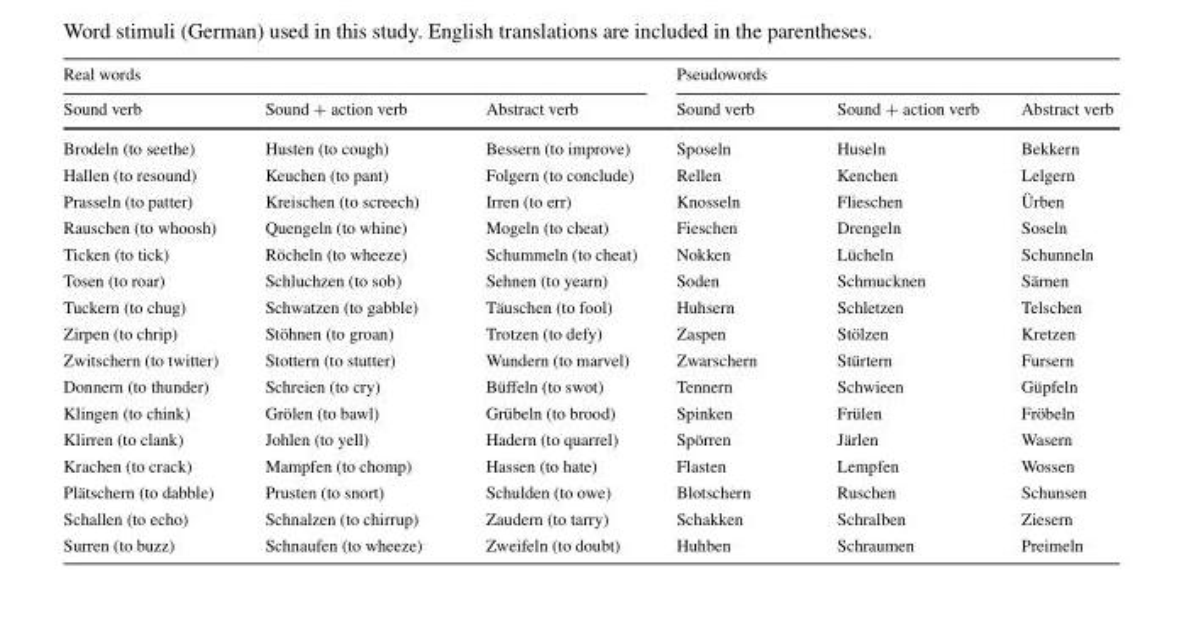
<table><thead><tr><td colspan="3">Real words</td><td colspan="3">Pseudowords</td></tr><tr><td>Sound verb</td><td>Sound + action verb</td><td>Abstract verb</td><td>Sound verb</td><td>Sound + action verb</td><td>Abstract verb</td></tr></thead><tbody><tr><td>Brodeln (to seethe)</td><td>Husten (to cough)</td><td>Bessern (to improve)</td><td>Sposeln</td><td>Huseln</td><td>Bekkern</td></tr><tr><td>Hallen (to resound)</td><td>Keuchen (to pant)</td><td>Folgern (to conclude)</td><td>Rellen</td><td>Kenchen</td><td>Lelgern</td></tr><tr><td>Prasseln (to patter)</td><td>Kreischen (to screech)</td><td>Irren (to err)</td><td>Knosseln</td><td>Flieschen</td><td>Ürben</td></tr><tr><td>Rauschen (to whoosh)</td><td>Quengeln (to whine)</td><td>Mogeln (to cheat)</td><td>Fieschen</td><td>Drengeln</td><td>Soseln</td></tr><tr><td>Ticken (to tick)</td><td>Röcheln (to wheeze)</td><td>Schummeln (to cheat)</td><td>Nokken</td><td>Lücheln</td><td>Schunneln</td></tr><tr><td>Tosen (to roar)</td><td>Schluchzen (to sob)</td><td>Sehnen (to yearn)</td><td>Soden</td><td>Schmucknen</td><td>Särnen</td></tr><tr><td>Tuckern (to chug)</td><td>Schwatzen (to gabble)</td><td>Täuschen (to fool)</td><td>Huhsern</td><td>Schletzen</td><td>Telschen</td></tr><tr><td>Zirpen (to chrip)</td><td>Stöhnen (to groan)</td><td>Trotzen (to defy)</td><td>Zaspen</td><td>Stölzen</td><td>Kretzen</td></tr><tr><td>Zwitschern (to twitter)</td><td>Stottern (to stutter)</td><td>Wundern (to marvel)</td><td>Zwarschern</td><td>Stürtern</td><td>Fursern</td></tr><tr><td>Donnern (to thunder)</td><td>Schreien (to cry)</td><td>Büffeln (to swot)</td><td>Tennern</td><td>Schwieen</td><td>Güpfeln</td></tr><tr><td>Klingen (to chink)</td><td>Grölen (to bawl)</td><td>Grübeln (to brood)</td><td>Spinken</td><td>Frülen</td><td>Fröbeln</td></tr><tr><td>Klirren (to clank)</td><td>Johlen (to yell)</td><td>Hadern (to quarrel)</td><td>Spörren</td><td>Järlen</td><td>Wasern</td></tr><tr><td>Krachen (to crack)</td><td>Mampfen (to chomp)</td><td>Hassen (to hate)</td><td>Flasten</td><td>Lempfen</td><td>Wossen</td></tr><tr><td>Plätschern (to dabble)</td><td>Prusten (to snort)</td><td>Schulden (to owe)</td><td>Blotschern</td><td>Ruschen</td><td>Schunsen</td></tr><tr><td>Schallen (to echo)</td><td>Schnalzen (to chirrup)</td><td>Zaudern (to tarry)</td><td>Schakken</td><td>Schralben</td><td>Ziesern</td></tr><tr><td>Surren (to buzz)</td><td>Schnaufen (to wheeze)</td><td>Zweifeln (to doubt)</td><td>Huhben</td><td>Schraumen</td><td>Preimeln</td></tr></tbody></table>